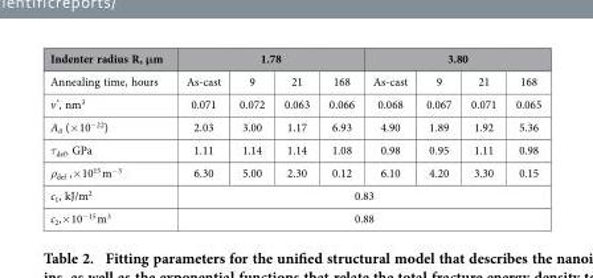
<table><thead><tr><td rowspan="2">Indenter radius R, μm Annealing time, hours</td><td colspan="4">1.78</td><td colspan="4">3.80</td></tr><tr><td>As-cast</td><td>9</td><td>21</td><td>168</td><td>As-cast</td><td>9</td><td>21</td><td>168</td></tr></thead><tbody><tr><td>v*, nm<sup>3</sup></td><td>0.071</td><td>0.072</td><td>0.063</td><td>0.066</td><td>0.068</td><td>0.067</td><td>0.071</td><td>0.065</td></tr><tr><td>A<sub>0</sub> (× 10<sup>−22</sup>)</td><td>2.03</td><td>3.00</td><td>1.17</td><td>6.93</td><td>4.90</td><td>1.89</td><td>1.92</td><td>5.36</td></tr><tr><td>τ<sub>def</sub>, GPa</td><td>1.11</td><td>1.14</td><td>1.14</td><td>1.08</td><td>0.98</td><td>0.95</td><td>1.11</td><td>0.98</td></tr><tr><td>ρ<sub>def</sub> ,× 10<sup>15</sup> m<sup>−3</sup></td><td>6.30</td><td>5.00</td><td>2.30</td><td>0.12</td><td>6.10</td><td>4.20</td><td>3.30</td><td>0.15</td></tr><tr><td>c<sub>1</sub>, kJ/m<sup>2</sup></td><td colspan="8">0.83</td></tr><tr><td>c<sub>2</sub>,× 10<sup>−15</sup> m<sup>3</sup></td><td colspan="8">0.88</td></tr></tbody></table>